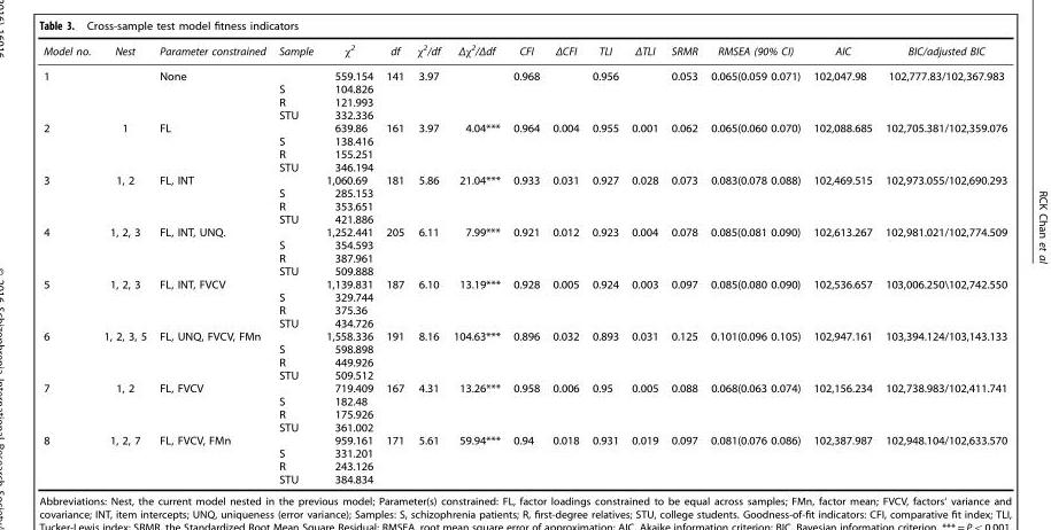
<table><thead><tr><td>Model no.</td><td>Nest</td><td>Parameter constrained</td><td>Sample</td><td>χ<sup>2</sup></td><td>df</td><td>χ<sup>2</sup>/df</td><td>Δχ<sup>2</sup>/Δdf</td><td>CFI</td><td>ΔCFI</td><td>TLI</td><td>ΔTLI</td><td>SRMR</td><td>RMSEA (90% CI)</td><td>AIC</td><td>BIC/adjusted BIC</td></tr></thead><tbody><tr><td rowspan="4">1</td><td></td><td>None</td><td></td><td>559.154</td><td>141</td><td>3.97</td><td></td><td>0.968</td><td></td><td>0.956</td><td></td><td>0.053</td><td>0.065(0.059 0.071)</td><td>102,047.98</td><td>102,777.83/102,367.983</td></tr><tr><td></td><td></td><td>S</td><td>104.826</td><td></td><td></td><td></td><td></td><td></td><td></td><td></td><td></td><td></td><td></td><td></td></tr><tr><td></td><td></td><td>R</td><td>121.993</td><td></td><td></td><td></td><td></td><td></td><td></td><td></td><td></td><td></td><td></td><td></td></tr><tr><td></td><td></td><td>STU</td><td>332.336</td><td></td><td></td><td></td><td></td><td></td><td></td><td></td><td></td><td></td><td></td><td></td></tr><tr><td rowspan="4">2</td><td>1</td><td>FL</td><td></td><td>639.86</td><td>161</td><td>3.97</td><td>4.04***</td><td>0.964</td><td>0.004</td><td>0.955</td><td>0.001</td><td>0.062</td><td>0.065(0.060 0.070)</td><td>102,088.685</td><td>102,705.381/102,359.076</td></tr><tr><td></td><td></td><td>S</td><td>138.416</td><td></td><td></td><td></td><td></td><td></td><td></td><td></td><td></td><td></td><td></td><td></td></tr><tr><td></td><td></td><td>R</td><td>155.251</td><td></td><td></td><td></td><td></td><td></td><td></td><td></td><td></td><td></td><td></td><td></td></tr><tr><td></td><td></td><td>STU</td><td>346.194</td><td></td><td></td><td></td><td></td><td></td><td></td><td></td><td></td><td></td><td></td><td></td></tr><tr><td rowspan="4">3</td><td>1, 2</td><td>FL, INT</td><td></td><td>1,060.69</td><td>181</td><td>5.86</td><td>21.04***</td><td>0.933</td><td>0.031</td><td>0.927</td><td>0.028</td><td>0.073</td><td>0.083(0.078 0.088)</td><td>102,469.515</td><td>102,973.055/102,690.293</td></tr><tr><td></td><td></td><td>S</td><td>285.153</td><td></td><td></td><td></td><td></td><td></td><td></td><td></td><td></td><td></td><td></td><td></td></tr><tr><td></td><td></td><td>R</td><td>353.651</td><td></td><td></td><td></td><td></td><td></td><td></td><td></td><td></td><td></td><td></td><td></td></tr><tr><td></td><td></td><td>STU</td><td>421.886</td><td></td><td></td><td></td><td></td><td></td><td></td><td></td><td></td><td></td><td></td><td></td></tr><tr><td rowspan="4">4</td><td>1, 2, 3</td><td>FL, INT, UNQ.</td><td></td><td>1,252.441</td><td>205</td><td>6.11</td><td>7.99***</td><td>0.921</td><td>0.012</td><td>0.923</td><td>0.004</td><td>0.078</td><td>0.085(0.081 0.090)</td><td>102,613.267</td><td>102,981.021/102,774.509</td></tr><tr><td></td><td></td><td>S</td><td>354.593</td><td></td><td></td><td></td><td></td><td></td><td></td><td></td><td></td><td></td><td></td><td></td></tr><tr><td></td><td></td><td>R</td><td>387.961</td><td></td><td></td><td></td><td></td><td></td><td></td><td></td><td></td><td></td><td></td><td></td></tr><tr><td></td><td></td><td>STU</td><td>509.888</td><td></td><td></td><td></td><td></td><td></td><td></td><td></td><td></td><td></td><td></td><td></td></tr><tr><td rowspan="4">5</td><td>1, 2, 3</td><td>FL, INT, FVCV</td><td></td><td>1,139.831</td><td>187</td><td>6.10</td><td>13.19***</td><td>0.928</td><td>0.005</td><td>0.924</td><td>0.003</td><td>0.097</td><td>0.085(0.080 0.090)</td><td>102,536.657</td><td>103,006.250\102,742.550</td></tr><tr><td></td><td></td><td>S</td><td>329.744</td><td></td><td></td><td></td><td></td><td></td><td></td><td></td><td></td><td></td><td></td><td></td></tr><tr><td></td><td></td><td>R</td><td>375.36</td><td></td><td></td><td></td><td></td><td></td><td></td><td></td><td></td><td></td><td></td><td></td></tr><tr><td></td><td></td><td>STU</td><td>434.726</td><td></td><td></td><td></td><td></td><td></td><td></td><td></td><td></td><td></td><td></td><td></td></tr><tr><td rowspan="4">6</td><td>1, 2, 3, 5</td><td>FL, UNQ, FVCV, FMn</td><td></td><td>1,558.336</td><td>191</td><td>8.16</td><td>104.63***</td><td>0.896</td><td>0.032</td><td>0.893</td><td>0.031</td><td>0.125</td><td>0.101(0.096 0.105)</td><td>102,947.161</td><td>103,394.124/103,143.133</td></tr><tr><td></td><td></td><td>S</td><td>598.898</td><td></td><td></td><td></td><td></td><td></td><td></td><td></td><td></td><td></td><td></td><td></td></tr><tr><td></td><td></td><td>R</td><td>449.926</td><td></td><td></td><td></td><td></td><td></td><td></td><td></td><td></td><td></td><td></td><td></td></tr><tr><td></td><td></td><td>STU</td><td>509.512</td><td></td><td></td><td></td><td></td><td></td><td></td><td></td><td></td><td></td><td></td><td></td></tr><tr><td rowspan="4">7</td><td>1, 2</td><td>FL, FVCV</td><td></td><td>719.409</td><td>167</td><td>4.31</td><td>13.26***</td><td>0.958</td><td>0.006</td><td>0.95</td><td>0.005</td><td>0.088</td><td>0.068(0.063 0.074)</td><td>102,156.234</td><td>102,738.983/102,411.741</td></tr><tr><td></td><td></td><td>S</td><td>182.48</td><td></td><td></td><td></td><td></td><td></td><td></td><td></td><td></td><td></td><td></td><td></td></tr><tr><td></td><td></td><td>R</td><td>175.926</td><td></td><td></td><td></td><td></td><td></td><td></td><td></td><td></td><td></td><td></td><td></td></tr><tr><td></td><td></td><td>STU</td><td>361.002</td><td></td><td></td><td></td><td></td><td></td><td></td><td></td><td></td><td></td><td></td><td></td></tr><tr><td rowspan="4">8</td><td>1, 2, 7</td><td>FL, FVCV, FMn</td><td></td><td>959.161</td><td>171</td><td>5.61</td><td>59.94***</td><td>0.94</td><td>0.018</td><td>0.931</td><td>0.019</td><td>0.097</td><td>0.081(0.076 0.086)</td><td>102,387.987</td><td>102,948.104/102,633.570</td></tr><tr><td></td><td></td><td>S</td><td>331.201</td><td></td><td></td><td></td><td></td><td></td><td></td><td></td><td></td><td></td><td></td><td></td></tr><tr><td></td><td></td><td>R</td><td>243.126</td><td></td><td></td><td></td><td></td><td></td><td></td><td></td><td></td><td></td><td></td><td></td></tr><tr><td></td><td></td><td>STU</td><td>384.834</td><td></td><td></td><td></td><td></td><td></td><td></td><td></td><td></td><td></td><td></td><td></td></tr></tbody></table>